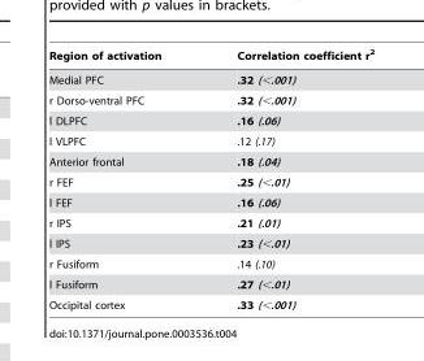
<table><thead><tr><td>Region of activation</td><td>Correlation coefficient r<sup>2</sup></td></tr></thead><tbody><tr><td>Medial PFC</td><td>.32 (&lt;.001)</td></tr><tr><td>r Dorso-ventral PFC</td><td>.32 (&lt;.001)</td></tr><tr><td>l DLPFC</td><td>.16 (.06)</td></tr><tr><td>l VLPFC</td><td>.12 (.17)</td></tr><tr><td>Anterior frontal</td><td>.18 (.04)</td></tr><tr><td>r FEF</td><td>.25 (&lt;.01)</td></tr><tr><td>l FEF</td><td>.16 (.06)</td></tr><tr><td>r IPS</td><td>.21 (.01)</td></tr><tr><td>l IPS</td><td>.23 (&lt;.01)</td></tr><tr><td>r Fusiform</td><td>.14 (.10)</td></tr><tr><td>l Fusiform</td><td>.27 (&lt;.01)</td></tr><tr><td>Occipital cortex</td><td>.33 (&lt;.001)</td></tr></tbody></table>